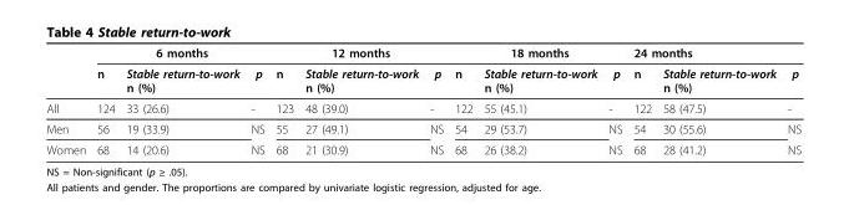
<table><thead><tr><td rowspan="2"></td><td colspan="3">6 months</td><td colspan="3">12 months</td><td colspan="3">18 months</td><td colspan="3">24 months</td></tr><tr><td>n</td><td>Stable return-to-work n (%)</td><td>p</td><td>n</td><td>Stable return-to-work n (%)</td><td>p</td><td>n</td><td>Stable return-to-work n (%)</td><td>p</td><td>n</td><td>Stable return-to-work n (%)</td><td>p</td></tr></thead><tbody><tr><td>All</td><td>124</td><td>33 (26.6)</td><td>-</td><td>123</td><td>48 (39.0)</td><td>-</td><td>122</td><td>55 (45.1)</td><td>-</td><td>122</td><td>58 (47.5)</td><td>-</td></tr><tr><td>Men</td><td>56</td><td>19 (33.9)</td><td>NS</td><td>55</td><td>27 (49.1)</td><td>NS</td><td>54</td><td>29 (53.7)</td><td>NS</td><td>54</td><td>30 (55.6)</td><td>NS</td></tr><tr><td>Women</td><td>68</td><td>14 (20.6)</td><td>NS</td><td>68</td><td>21 (30.9)</td><td>NS</td><td>68</td><td>26 (38.2)</td><td>NS</td><td>68</td><td>28 (41.2)</td><td>NS</td></tr></tbody></table>